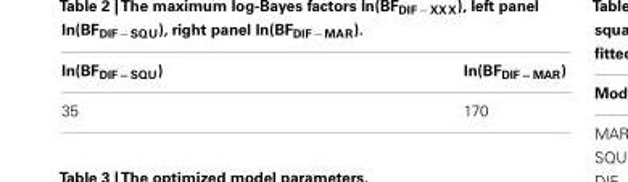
<table><thead><tr><td>ln(BF<sub>DIF − SQU</sub>)</td><td>ln(BF<sub>DIF − MAR</sub>)</td></tr></thead><tbody><tr><td>35</td><td>170</td></tr></tbody></table>